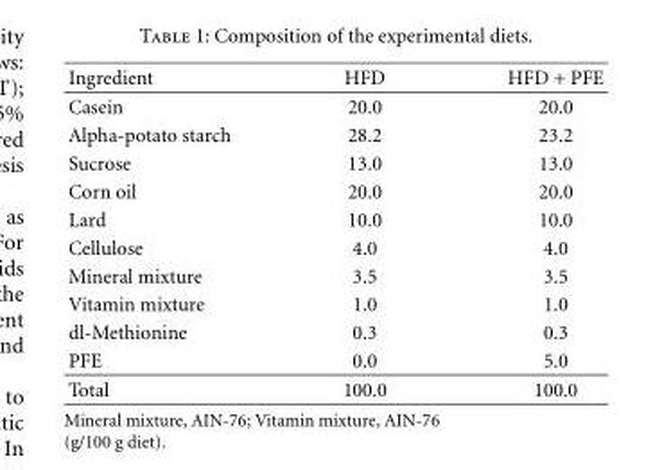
<table><thead><tr><td>Ingredient</td><td>HFD</td><td>HFD + PFE</td></tr></thead><tbody><tr><td>Casein</td><td>20.0</td><td>20.0</td></tr><tr><td>Alpha-potato starch</td><td>28.2</td><td>23.2</td></tr><tr><td>Sucrose</td><td>13.0</td><td>13.0</td></tr><tr><td>Corn oil</td><td>20.0</td><td>20.0</td></tr><tr><td>Lard</td><td>10.0</td><td>10.0</td></tr><tr><td>Cellulose</td><td>4.0</td><td>4.0</td></tr><tr><td>Mineral mixture</td><td>3.5</td><td>3.5</td></tr><tr><td>Vitamin mixture</td><td>1.0</td><td>1.0</td></tr><tr><td>dl-Methionine</td><td>0.3</td><td>0.3</td></tr><tr><td>PFE</td><td>0.0</td><td>5.0</td></tr><tr><td>Total</td><td>100.0</td><td>100.0</td></tr></tbody></table>